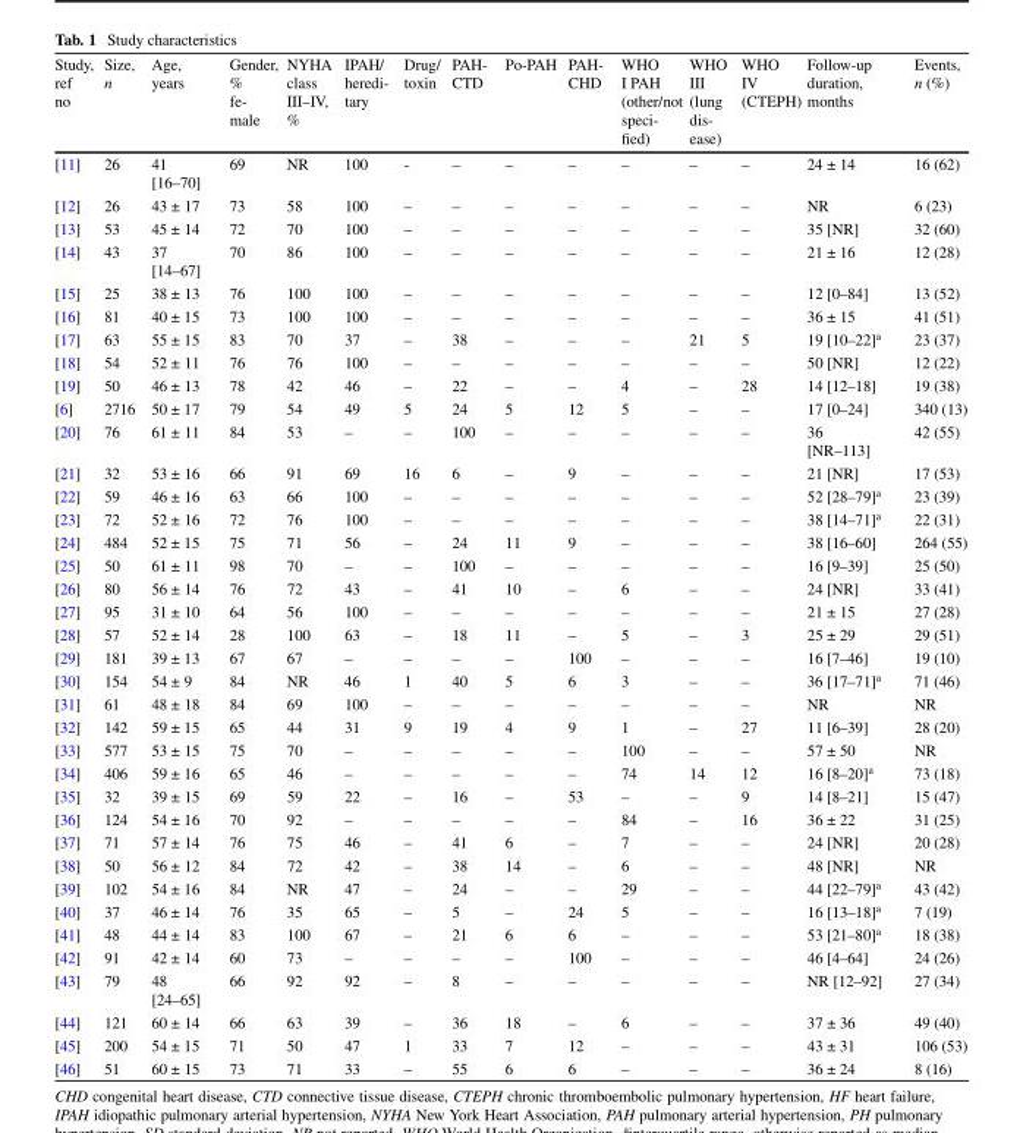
<table><thead><tr><td>Study, ref no</td><td>Size, n</td><td>Age, years</td><td>Gender, % fe- male</td><td>NYHA class III–IV, %</td><td>IPAH/ heredi- tary</td><td>Drug/ toxin</td><td>PAH- CTD</td><td>Po-PAH</td><td>PAH- CHD</td><td>WHO I PAH (other/not speci- fied)</td><td>WHO III (lung dis- ease)</td><td>WHO IV (CTEPH)</td><td>Follow-up duration, months</td><td>Events, n (%)</td></tr></thead><tbody><tr><td>[11]</td><td>26</td><td>41 [16–70]</td><td>69</td><td>NR</td><td>100</td><td>-</td><td>–</td><td>–</td><td>–</td><td>–</td><td>–</td><td>–</td><td>24 ± 14</td><td>16 (62)</td></tr><tr><td>[12]</td><td>26</td><td>43 ± 17</td><td>73</td><td>58</td><td>100</td><td>–</td><td>–</td><td>–</td><td>–</td><td>–</td><td>–</td><td>–</td><td>NR</td><td>6 (23)</td></tr><tr><td>[13]</td><td>53</td><td>45 ± 14</td><td>72</td><td>70</td><td>100</td><td>–</td><td>–</td><td>–</td><td>–</td><td>–</td><td>–</td><td>–</td><td>35 [NR]</td><td>32 (60)</td></tr><tr><td>[14]</td><td>43</td><td>37 [14–67]</td><td>70</td><td>86</td><td>100</td><td>–</td><td>–</td><td>–</td><td>–</td><td>–</td><td>–</td><td>–</td><td>21 ± 16</td><td>12 (28)</td></tr><tr><td>[15]</td><td>25</td><td>38 ± 13</td><td>76</td><td>100</td><td>100</td><td>–</td><td>–</td><td>–</td><td>–</td><td>–</td><td>–</td><td>–</td><td>12 [0–84]</td><td>13 (52)</td></tr><tr><td>[16]</td><td>81</td><td>40 ± 15</td><td>73</td><td>100</td><td>100</td><td>–</td><td>–</td><td>–</td><td>–</td><td>–</td><td>–</td><td>–</td><td>36 ± 15</td><td>41 (51)</td></tr><tr><td>[17]</td><td>63</td><td>55 ± 15</td><td>83</td><td>70</td><td>37</td><td>–</td><td>38</td><td>–</td><td>–</td><td>–</td><td>21</td><td>5</td><td>19 [10–22]<sup>a</sup></td><td>23 (37)</td></tr><tr><td>[18]</td><td>54</td><td>52 ± 11</td><td>76</td><td>76</td><td>100</td><td>–</td><td>–</td><td>–</td><td>–</td><td>–</td><td>–</td><td>–</td><td>50 [NR]</td><td>12 (22)</td></tr><tr><td>[19]</td><td>50</td><td>46 ± 13</td><td>78</td><td>42</td><td>46</td><td>–</td><td>22</td><td>–</td><td>–</td><td>4</td><td>–</td><td>28</td><td>14 [12–18]</td><td>19 (38)</td></tr><tr><td>[6]</td><td>2716</td><td>50 ± 17</td><td>79</td><td>54</td><td>49</td><td>5</td><td>24</td><td>5</td><td>12</td><td>5</td><td>–</td><td>–</td><td>17 [0–24]</td><td>340 (13)</td></tr><tr><td>[20]</td><td>76</td><td>61 ± 11</td><td>84</td><td>53</td><td>–</td><td>–</td><td>100</td><td>–</td><td>–</td><td>–</td><td>–</td><td>–</td><td>36 [NR–113]</td><td>42 (55)</td></tr><tr><td>[21]</td><td>32</td><td>53 ± 16</td><td>66</td><td>91</td><td>69</td><td>16</td><td>6</td><td>–</td><td>9</td><td>–</td><td>–</td><td>–</td><td>21 [NR]</td><td>17 (53)</td></tr><tr><td>[22]</td><td>59</td><td>46 ± 16</td><td>63</td><td>66</td><td>100</td><td>–</td><td>–</td><td>–</td><td>–</td><td>–</td><td>–</td><td>–</td><td>52 [28–79]<sup>a</sup></td><td>23 (39)</td></tr><tr><td>[23]</td><td>72</td><td>52 ± 16</td><td>72</td><td>76</td><td>100</td><td>–</td><td>–</td><td>–</td><td>–</td><td>–</td><td>–</td><td>–</td><td>38 [14–71]<sup>a</sup></td><td>22 (31)</td></tr><tr><td>[24]</td><td>484</td><td>52 ± 15</td><td>75</td><td>71</td><td>56</td><td>–</td><td>24</td><td>11</td><td>9</td><td>–</td><td>–</td><td>–</td><td>38 [16–60]</td><td>264 (55)</td></tr><tr><td>[25]</td><td>50</td><td>61 ± 11</td><td>98</td><td>70</td><td>–</td><td>–</td><td>100</td><td>–</td><td>–</td><td>–</td><td>–</td><td>–</td><td>16 [9–39]</td><td>25 (50)</td></tr><tr><td>[26]</td><td>80</td><td>56 ± 14</td><td>76</td><td>72</td><td>43</td><td>–</td><td>41</td><td>10</td><td>–</td><td>6</td><td>–</td><td>–</td><td>24 [NR]</td><td>33 (41)</td></tr><tr><td>[27]</td><td>95</td><td>31 ± 10</td><td>64</td><td>56</td><td>100</td><td>–</td><td>–</td><td>–</td><td>–</td><td>–</td><td>–</td><td>–</td><td>21 ± 15</td><td>27 (28)</td></tr><tr><td>[28]</td><td>57</td><td>52 ± 14</td><td>28</td><td>100</td><td>63</td><td>–</td><td>18</td><td>11</td><td>–</td><td>5</td><td>–</td><td>3</td><td>25 ± 29</td><td>29 (51)</td></tr><tr><td>[29]</td><td>181</td><td>39 ± 13</td><td>67</td><td>67</td><td>–</td><td>–</td><td>–</td><td>–</td><td>100</td><td>–</td><td>–</td><td>–</td><td>16 [7–46]</td><td>19 (10)</td></tr><tr><td>[30]</td><td>154</td><td>54 ± 9</td><td>84</td><td>NR</td><td>46</td><td>1</td><td>40</td><td>5</td><td>6</td><td>3</td><td>–</td><td>–</td><td>36 [17–71]<sup>a</sup></td><td>71 (46)</td></tr><tr><td>[31]</td><td>61</td><td>48 ± 18</td><td>84</td><td>69</td><td>100</td><td>–</td><td>–</td><td>–</td><td>–</td><td>–</td><td>–</td><td>–</td><td>NR</td><td>NR</td></tr><tr><td>[32]</td><td>142</td><td>59 ± 15</td><td>65</td><td>44</td><td>31</td><td>9</td><td>19</td><td>4</td><td>9</td><td>1</td><td>–</td><td>27</td><td>11 [6–39]</td><td>28 (20)</td></tr><tr><td>[33]</td><td>577</td><td>53 ± 15</td><td>75</td><td>70</td><td>–</td><td>–</td><td>–</td><td>–</td><td>–</td><td>100</td><td>–</td><td>–</td><td>57 ± 50</td><td>NR</td></tr><tr><td>[34]</td><td>406</td><td>59 ± 16</td><td>65</td><td>46</td><td>–</td><td>–</td><td>–</td><td>–</td><td>–</td><td>74</td><td>14</td><td>12</td><td>16 [8–20]<sup>a</sup></td><td>73 (18)</td></tr><tr><td>[35]</td><td>32</td><td>39 ± 15</td><td>69</td><td>59</td><td>22</td><td>–</td><td>16</td><td>–</td><td>53</td><td>–</td><td>–</td><td>9</td><td>14 [8–21]</td><td>15 (47)</td></tr><tr><td>[36]</td><td>124</td><td>54 ± 16</td><td>70</td><td>92</td><td>–</td><td>–</td><td>–</td><td>–</td><td>–</td><td>84</td><td>–</td><td>16</td><td>36 ± 22</td><td>31 (25)</td></tr><tr><td>[37]</td><td>71</td><td>57 ± 14</td><td>76</td><td>75</td><td>46</td><td>–</td><td>41</td><td>6</td><td>–</td><td>7</td><td>–</td><td>–</td><td>24 [NR]</td><td>20 (28)</td></tr><tr><td>[38]</td><td>50</td><td>56 ± 12</td><td>84</td><td>72</td><td>42</td><td>–</td><td>38</td><td>14</td><td>–</td><td>6</td><td>–</td><td>–</td><td>48 [NR]</td><td>NR</td></tr><tr><td>[39]</td><td>102</td><td>54 ± 16</td><td>84</td><td>NR</td><td>47</td><td>–</td><td>24</td><td>–</td><td>–</td><td>29</td><td>–</td><td>–</td><td>44 [22–79]<sup>a</sup></td><td>43 (42)</td></tr><tr><td>[40]</td><td>37</td><td>46 ± 14</td><td>76</td><td>35</td><td>65</td><td>–</td><td>5</td><td>–</td><td>24</td><td>5</td><td>–</td><td>–</td><td>16 [13–18]<sup>a</sup></td><td>7 (19)</td></tr><tr><td>[41]</td><td>48</td><td>44 ± 14</td><td>83</td><td>100</td><td>67</td><td>–</td><td>21</td><td>6</td><td>6</td><td>–</td><td>–</td><td>–</td><td>53 [21–80]<sup>a</sup></td><td>18 (38)</td></tr><tr><td>[42]</td><td>91</td><td>42 ± 14</td><td>60</td><td>73</td><td>–</td><td>–</td><td>–</td><td>–</td><td>100</td><td>–</td><td>–</td><td>–</td><td>46 [4–64]</td><td>24 (26)</td></tr><tr><td>[43]</td><td>79</td><td>48 [24–65]</td><td>66</td><td>92</td><td>92</td><td>–</td><td>8</td><td>–</td><td>–</td><td>–</td><td>–</td><td>–</td><td>NR [12–92]</td><td>27 (34)</td></tr><tr><td>[44]</td><td>121</td><td>60 ± 14</td><td>66</td><td>63</td><td>39</td><td>–</td><td>36</td><td>18</td><td>–</td><td>6</td><td>–</td><td>–</td><td>37 ± 36</td><td>49 (40)</td></tr><tr><td>[45]</td><td>200</td><td>54 ± 15</td><td>71</td><td>50</td><td>47</td><td>1</td><td>33</td><td>7</td><td>12</td><td>–</td><td>–</td><td>–</td><td>43 ± 31</td><td>106 (53)</td></tr><tr><td>[46]</td><td>51</td><td>60 ± 15</td><td>73</td><td>71</td><td>33</td><td>–</td><td>55</td><td>6</td><td>6</td><td>–</td><td>–</td><td>–</td><td>36 ± 24</td><td>8 (16)</td></tr></tbody></table>